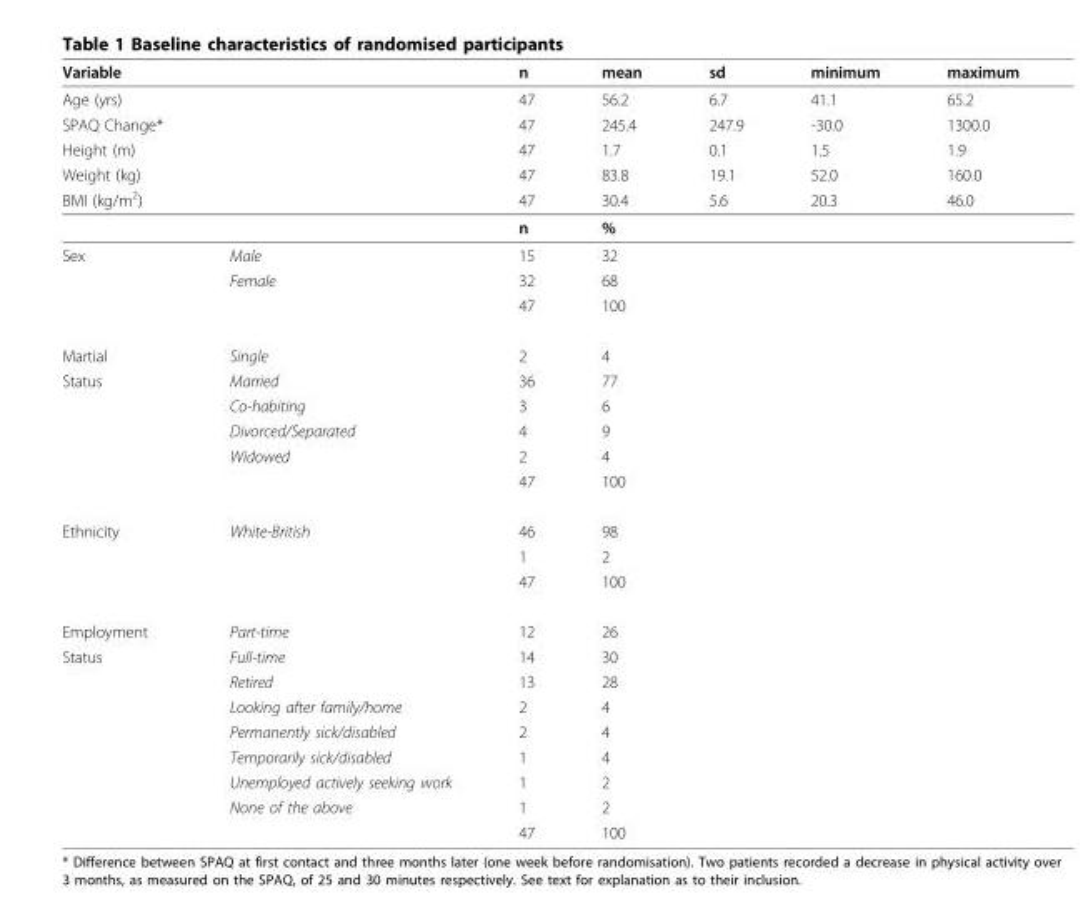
<table><thead><tr><td>Variable</td><td></td><td>n</td><td>mean</td><td>sd</td><td>minimum</td><td>maximum</td></tr></thead><tbody><tr><td>Age (yrs)</td><td></td><td>47</td><td>56.2</td><td>6.7</td><td>41.1</td><td>65.2</td></tr><tr><td>SPAQ Change*</td><td></td><td>47</td><td>245.4</td><td>247.9</td><td>-30.0</td><td>1300.0</td></tr><tr><td>Height (m)</td><td></td><td>47</td><td>1.7</td><td>0.1</td><td>1.5</td><td>1.9</td></tr><tr><td>Weight (kg)</td><td></td><td>47</td><td>83.8</td><td>19.1</td><td>52.0</td><td>160.0</td></tr><tr><td rowspan="2">BMI (kg/m<sup>2</sup>)</td><td></td><td>47</td><td>30.4</td><td>5.6</td><td>20.3</td><td>46.0</td></tr><tr><td></td><td>n</td><td>%</td><td></td><td></td><td></td></tr><tr><td rowspan="3">Sex</td><td>Male</td><td>15</td><td>32</td><td></td><td></td><td></td></tr><tr><td>Female</td><td>32</td><td>68</td><td></td><td></td><td></td></tr><tr><td></td><td>47</td><td>100</td><td></td><td></td><td></td></tr><tr><td>Martial</td><td>Single</td><td>2</td><td>4</td><td></td><td></td><td></td></tr><tr><td rowspan="5">Status</td><td>Married</td><td>36</td><td>77</td><td></td><td></td><td></td></tr><tr><td>Co-habiting</td><td>3</td><td>6</td><td></td><td></td><td></td></tr><tr><td>Divorced/Separated</td><td>4</td><td>9</td><td></td><td></td><td></td></tr><tr><td>Widowed</td><td>2</td><td>4</td><td></td><td></td><td></td></tr><tr><td></td><td>47</td><td>100</td><td></td><td></td><td></td></tr><tr><td rowspan="3">Ethnicity</td><td>White-British</td><td>46</td><td>98</td><td></td><td></td><td></td></tr><tr><td></td><td>1</td><td>2</td><td></td><td></td><td></td></tr><tr><td></td><td>47</td><td>100</td><td></td><td></td><td></td></tr><tr><td>Employment</td><td>Part-time</td><td>12</td><td>26</td><td></td><td></td><td></td></tr><tr><td rowspan="8">Status</td><td>Full-time</td><td>14</td><td>30</td><td></td><td></td><td></td></tr><tr><td>Retired</td><td>13</td><td>28</td><td></td><td></td><td></td></tr><tr><td>Looking after family/home</td><td>2</td><td>4</td><td></td><td></td><td></td></tr><tr><td>Permanently sick/disabled</td><td>2</td><td>4</td><td></td><td></td><td></td></tr><tr><td>Temporarily sick/disabled</td><td>1</td><td>4</td><td></td><td></td><td></td></tr><tr><td>Unemployed actively seeking work</td><td>1</td><td>2</td><td></td><td></td><td></td></tr><tr><td>None of the above</td><td>1</td><td>2</td><td></td><td></td><td></td></tr><tr><td></td><td>47</td><td>100</td><td></td><td></td><td></td></tr></tbody></table>